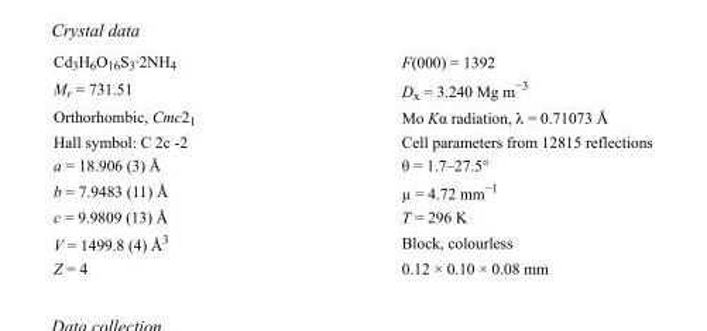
<table><tbody><tr><td>Cd<sub>3</sub>H<sub>6</sub>O<sub>16</sub>S<sub>3</sub>·2NH<sub>4</sub></td><td>F(000) = 1392</td></tr><tr><td>M<sub>r</sub> = 731.51</td><td>D<sub>x</sub> = 3.240 Mg m<sup>−3</sup></td></tr><tr><td>Orthorhombic, Cmc2<sub>1</sub></td><td>Mo Kα radiation, λ = 0.71073 Å</td></tr><tr><td>Hall symbol: C 2c -2</td><td>Cell parameters from 12815 reflections</td></tr><tr><td>a = 18.906 (3) Å</td><td>θ = 1.7–27.5°</td></tr><tr><td>b = 7.9483 (11) Å</td><td>µ = 4.72 mm<sup>−1</sup></td></tr><tr><td>c = 9.9809 (13) Å</td><td>T = 296 K</td></tr><tr><td>V = 1499.8 (4) Å<sup>3</sup></td><td>Block, colourless</td></tr><tr><td>Z = 4</td><td>0.12 × 0.10 × 0.08 mm</td></tr></tbody></table>